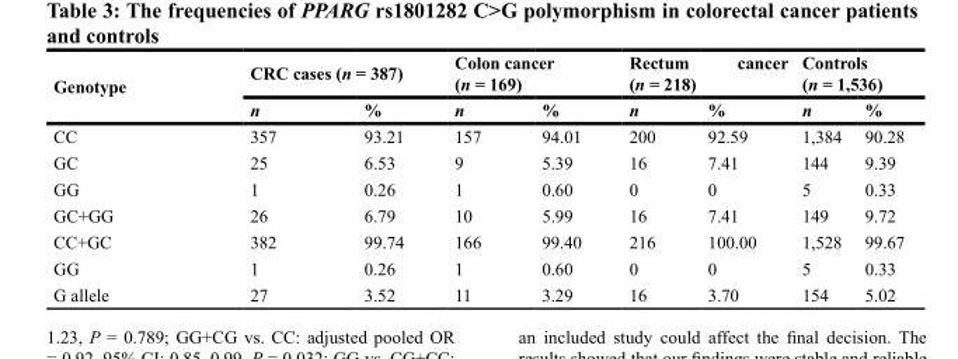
<table><thead><tr><td rowspan="2">Genotype</td><td colspan="2">CRC cases (n = 387)</td><td colspan="2">Colon cancer (n = 169)</td><td colspan="2">Rectum cancer (n = 218)</td><td colspan="2">Controls (n = 1,536)</td></tr><tr><td>n</td><td>%</td><td>n</td><td>%</td><td>n</td><td>%</td><td>n</td><td>%</td></tr></thead><tbody><tr><td>CC</td><td>357</td><td>93.21</td><td>157</td><td>94.01</td><td>200</td><td>92.59</td><td>1,384</td><td>90.28</td></tr><tr><td>GC</td><td>25</td><td>6.53</td><td>9</td><td>5.39</td><td>16</td><td>7.41</td><td>144</td><td>9.39</td></tr><tr><td>GG</td><td>1</td><td>0.26</td><td>1</td><td>0.60</td><td>0</td><td>0</td><td>5</td><td>0.33</td></tr><tr><td>GC+GG</td><td>26</td><td>6.79</td><td>10</td><td>5.99</td><td>16</td><td>7.41</td><td>149</td><td>9.72</td></tr><tr><td>CC+GC</td><td>382</td><td>99.74</td><td>166</td><td>99.40</td><td>216</td><td>100.00</td><td>1,528</td><td>99.67</td></tr><tr><td>GG</td><td>1</td><td>0.26</td><td>1</td><td>0.60</td><td>0</td><td>0</td><td>5</td><td>0.33</td></tr><tr><td>G allele</td><td>27</td><td>3.52</td><td>11</td><td>3.29</td><td>16</td><td>3.70</td><td>154</td><td>5.02</td></tr></tbody></table>